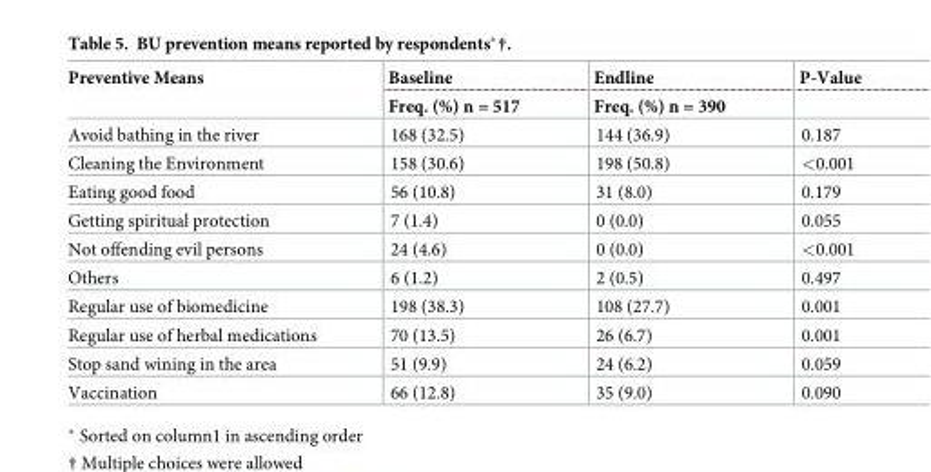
<table><thead><tr><td rowspan="2">Preventive Means</td><td rowspan="2">Baseline Freq. (%) n = 517</td><td rowspan="2">Endline Freq. (%) n = 390</td><td rowspan="2">P-Value</td></tr><tr></tr></thead><tbody><tr><td>Avoid bathing in the river</td><td>168 (32.5)</td><td>144 (36.9)</td><td>0.187</td></tr><tr><td>Cleaning the Environment</td><td>158 (30.6)</td><td>198 (50.8)</td><td>&lt;0.001</td></tr><tr><td>Eating good food</td><td>56 (10.8)</td><td>31 (8.0)</td><td>0.179</td></tr><tr><td>Getting spiritual protection</td><td>7 (1.4)</td><td>0 (0.0)</td><td>0.055</td></tr><tr><td>Not offending evil persons</td><td>24 (4.6)</td><td>0 (0.0)</td><td>&lt;0.001</td></tr><tr><td>Others</td><td>6 (1.2)</td><td>2 (0.5)</td><td>0.497</td></tr><tr><td>Regular use of biomedicine</td><td>198 (38.3)</td><td>108 (27.7)</td><td>0.001</td></tr><tr><td>Regular use of herbal medications</td><td>70 (13.5)</td><td>26 (6.7)</td><td>0.001</td></tr><tr><td>Stop sand wining in the area</td><td>51 (9.9)</td><td>24 (6.2)</td><td>0.059</td></tr><tr><td>Vaccination</td><td>66 (12.8)</td><td>35 (9.0)</td><td>0.090</td></tr></tbody></table>